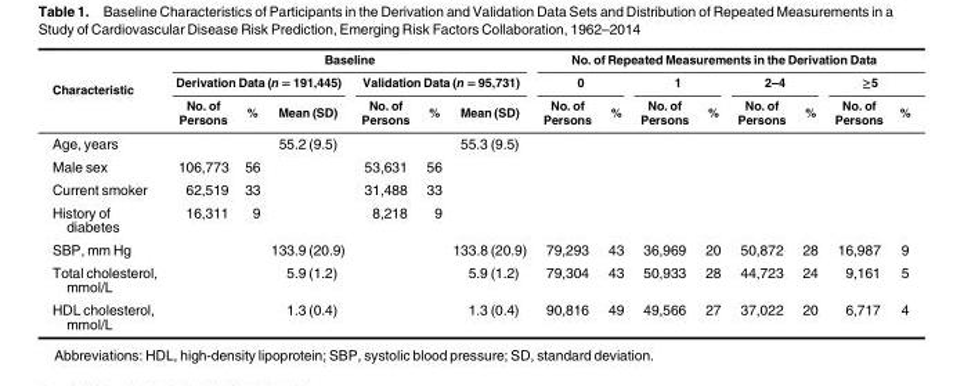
<table><thead><tr><td rowspan="3">Characteristic</td><td colspan="6">Baseline</td><td colspan="8">No. of Repeated Measurements in the Derivation Data</td></tr><tr><td colspan="3">Derivation Data (n = 191,445)</td><td colspan="3">Validation Data (n = 95,731)</td><td colspan="2">0</td><td colspan="2">1</td><td colspan="2">2–4</td><td colspan="2">≥5</td></tr><tr><td>No. of Persons</td><td>%</td><td>Mean (SD)</td><td>No. of Persons</td><td>%</td><td>Mean (SD)</td><td>No. of Persons</td><td>%</td><td>No. of Persons</td><td>%</td><td>No. of Persons</td><td>%</td><td>No. of Persons</td><td>%</td></tr></thead><tbody><tr><td>Age, years</td><td></td><td></td><td>55.2 (9.5)</td><td></td><td></td><td>55.3 (9.5)</td><td></td><td></td><td></td><td></td><td></td><td></td><td></td><td></td></tr><tr><td>Male sex</td><td>106,773</td><td>56</td><td></td><td>53,631</td><td>56</td><td></td><td></td><td></td><td></td><td></td><td></td><td></td><td></td><td></td></tr><tr><td>Current smoker</td><td>62,519</td><td>33</td><td></td><td>31,488</td><td>33</td><td></td><td></td><td></td><td></td><td></td><td></td><td></td><td></td><td></td></tr><tr><td>History of diabetes</td><td>16,311</td><td>9</td><td></td><td>8,218</td><td>9</td><td></td><td></td><td></td><td></td><td></td><td></td><td></td><td></td><td></td></tr><tr><td>SBP, mm Hg</td><td></td><td></td><td>133.9 (20.9)</td><td></td><td></td><td>133.8 (20.9)</td><td>79,293</td><td>43</td><td>36,969</td><td>20</td><td>50,872</td><td>28</td><td>16,987</td><td>9</td></tr><tr><td>Total cholesterol, mmol/L</td><td></td><td></td><td>5.9 (1.2)</td><td></td><td></td><td>5.9 (1.2)</td><td>79,304</td><td>43</td><td>50,933</td><td>28</td><td>44,723</td><td>24</td><td>9,161</td><td>5</td></tr><tr><td>HDL cholesterol, mmol/L</td><td></td><td></td><td>1.3 (0.4)</td><td></td><td></td><td>1.3 (0.4)</td><td>90,816</td><td>49</td><td>49,566</td><td>27</td><td>37,022</td><td>20</td><td>6,717</td><td>4</td></tr></tbody></table>